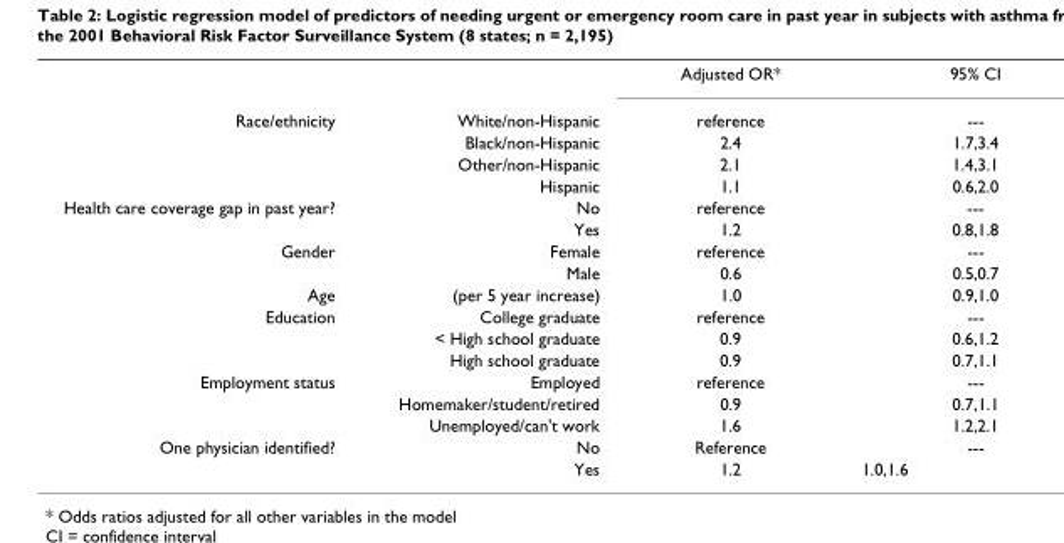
<table><thead><tr><td></td><td></td><td>Adjusted OR*</td><td>95% CI</td></tr></thead><tbody><tr><td rowspan="4">Race/ethnicity</td><td>White/non-Hispanic</td><td>reference</td><td>---</td></tr><tr><td>Black/non-Hispanic</td><td>2.4</td><td>1.7,3.4</td></tr><tr><td>Other/non-Hispanic</td><td>2.1</td><td>1.4,3.1</td></tr><tr><td>Hispanic</td><td>1.1</td><td>0.6,2.0</td></tr><tr><td rowspan="2">Health care coverage gap in past year?</td><td>No</td><td>reference</td><td>---</td></tr><tr><td>Yes</td><td>1.2</td><td>0.8,1.8</td></tr><tr><td rowspan="2">Gender</td><td>Female</td><td>reference</td><td>---</td></tr><tr><td>Male</td><td>0.6</td><td>0.5,0.7</td></tr><tr><td>Age</td><td>(per 5 year increase)</td><td>1.0</td><td>0.9,1.0</td></tr><tr><td rowspan="3">Education</td><td>College graduate</td><td>reference</td><td>---</td></tr><tr><td>&lt; High school graduate</td><td>0.9</td><td>0.6,1.2</td></tr><tr><td>High school graduate</td><td>0.9</td><td>0.7,1.1</td></tr><tr><td rowspan="3">Employment status</td><td>Employed</td><td>reference</td><td>---</td></tr><tr><td>Homemaker/student/retired</td><td>0.9</td><td>0.7,1.1</td></tr><tr><td>Unemployed/can&#x27;t work</td><td>1.6</td><td>1.2,2.1</td></tr><tr><td rowspan="2">One physician identified?</td><td>No</td><td>Reference</td><td>---</td></tr><tr><td>Yes</td><td>1.2</td><td>1.0,1.6</td></tr></tbody></table>